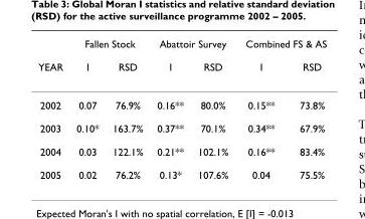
<table><thead><tr><td rowspan="2">YEAR</td><td colspan="2">Fallen Stock</td><td colspan="2">Abattoir Survey</td><td colspan="2">Combined FS &amp; AS</td></tr><tr><td>I</td><td>RSD</td><td>I</td><td>RSD</td><td>I</td><td>RSD</td></tr></thead><tbody><tr><td>2002</td><td>0.07</td><td>76.9%</td><td>0.16**</td><td>80.0%</td><td>0.15**</td><td>73.8%</td></tr><tr><td>2003</td><td>0.10*</td><td>163.7%</td><td>0.37**</td><td>70.1%</td><td>0.34**</td><td>67.9%</td></tr><tr><td>2004</td><td>0.03</td><td>122.1%</td><td>0.21**</td><td>102.1%</td><td>0.16**</td><td>83.4%</td></tr><tr><td>2005</td><td>0.02</td><td>76.2%</td><td>0.13*</td><td>107.6%</td><td>0.04</td><td>75.5%</td></tr></tbody></table>